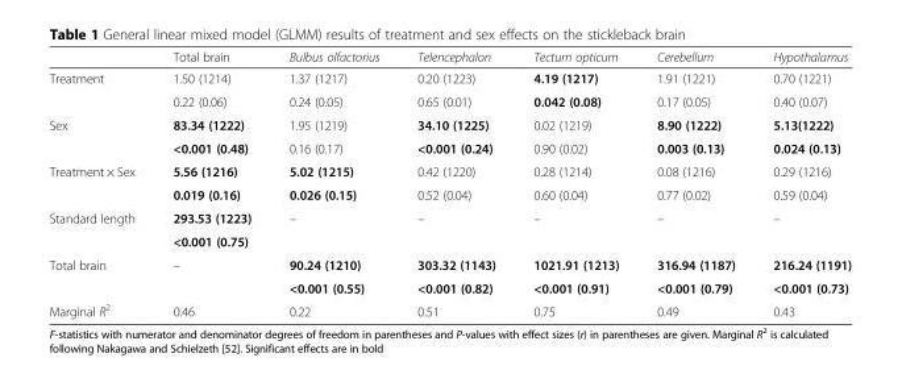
<table><thead><tr><td></td><td>Total brain</td><td>Bulbus olfactorius</td><td>Telencephalon</td><td>Tectum opticum</td><td>Cerebellum</td><td>Hypothalamus</td></tr></thead><tbody><tr><td rowspan="2">Treatment</td><td>1.50 (1214)</td><td>1.37 (1217)</td><td>0.20 (1223)</td><td>4.19 (1217)</td><td>1.91 (1221)</td><td>0.70 (1221)</td></tr><tr><td>0.22 (0.06)</td><td>0.24 (0.05)</td><td>0.65 (0.01)</td><td>0.042 (0.08)</td><td>0.17 (0.05)</td><td>0.40 (0.07)</td></tr><tr><td rowspan="2">Sex</td><td>83.34 (1222)</td><td>1.95 (1219)</td><td>34.10 (1225)</td><td>0.02 (1219)</td><td>8.90 (1222)</td><td>5.13(1222)</td></tr><tr><td>&lt;0.001 (0.48)</td><td>0.16 (0.17)</td><td>&lt;0.001 (0.24)</td><td>0.90 (0.02)</td><td>0.003 (0.13)</td><td>0.024 (0.13)</td></tr><tr><td rowspan="2">Treatment × Sex</td><td>5.56 (1216)</td><td>5.02 (1215)</td><td>0.42 (1220)</td><td>0.28 (1214)</td><td>0.08 (1216)</td><td>0.29 (1216)</td></tr><tr><td>0.019 (0.16)</td><td>0.026 (0.15)</td><td>0.52 (0.04)</td><td>0.60 (0.04)</td><td>0.77 (0.02)</td><td>0.59 (0.04)</td></tr><tr><td rowspan="2">Standard length</td><td>293.53 (1223)</td><td rowspan="2">–</td><td rowspan="2">–</td><td rowspan="2">–</td><td rowspan="2">–</td><td rowspan="2">–</td></tr><tr><td>&lt;0.001 (0.75)</td></tr><tr><td rowspan="2">Total brain</td><td rowspan="2">–</td><td>90.24 (1210)</td><td>303.32 (1143)</td><td>1021.91 (1213)</td><td>316.94 (1187)</td><td>216.24 (1191)</td></tr><tr><td>&lt;0.001 (0.55)</td><td>&lt;0.001 (0.82)</td><td>&lt;0.001 (0.91)</td><td>&lt;0.001 (0.79)</td><td>&lt;0.001 (0.73)</td></tr><tr><td>Marginal R<sup>2</sup></td><td>0.46</td><td>0.22</td><td>0.51</td><td>0.75</td><td>0.49</td><td>0.43</td></tr></tbody></table>